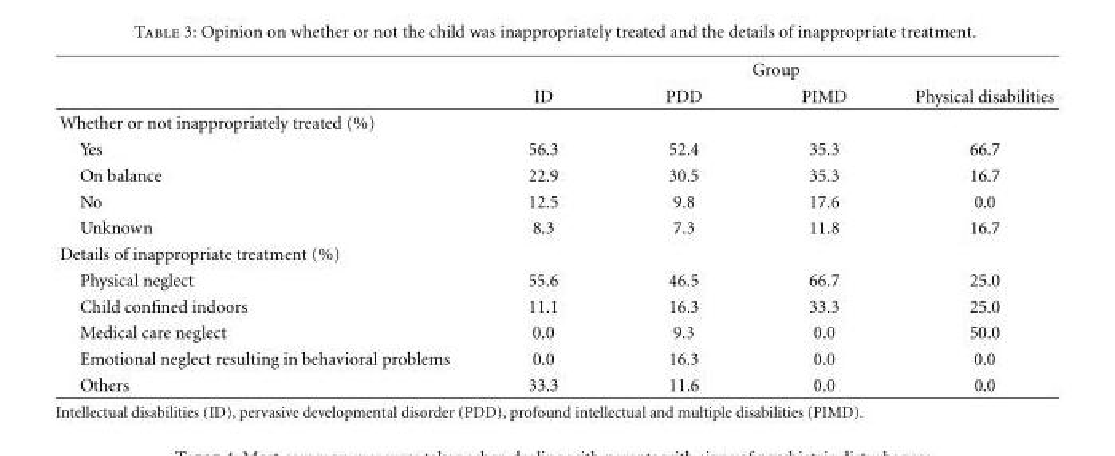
<table><thead><tr><td rowspan="2"></td><td colspan="4">Group</td></tr><tr><td>ID</td><td>PDD</td><td>PIMD</td><td>Physical disabilities</td></tr></thead><tbody><tr><td colspan="5">Whether or not inappropriately treated (%)</td></tr><tr><td>Yes</td><td>56.3</td><td>52.4</td><td>35.3</td><td>66.7</td></tr><tr><td>On balance</td><td>22.9</td><td>30.5</td><td>35.3</td><td>16.7</td></tr><tr><td>No</td><td>12.5</td><td>9.8</td><td>17.6</td><td>0.0</td></tr><tr><td>Unknown</td><td>8.3</td><td>7.3</td><td>11.8</td><td>16.7</td></tr><tr><td colspan="5">Details of inappropriate treatment (%)</td></tr><tr><td>Physical neglect</td><td>55.6</td><td>46.5</td><td>66.7</td><td>25.0</td></tr><tr><td>Child confined indoors</td><td>11.1</td><td>16.3</td><td>33.3</td><td>25.0</td></tr><tr><td>Medical care neglect</td><td>0.0</td><td>9.3</td><td>0.0</td><td>50.0</td></tr><tr><td>Emotional neglect resulting in behavioral problems</td><td>0.0</td><td>16.3</td><td>0.0</td><td>0.0</td></tr><tr><td>Others</td><td>33.3</td><td>11.6</td><td>0.0</td><td>0.0</td></tr></tbody></table>